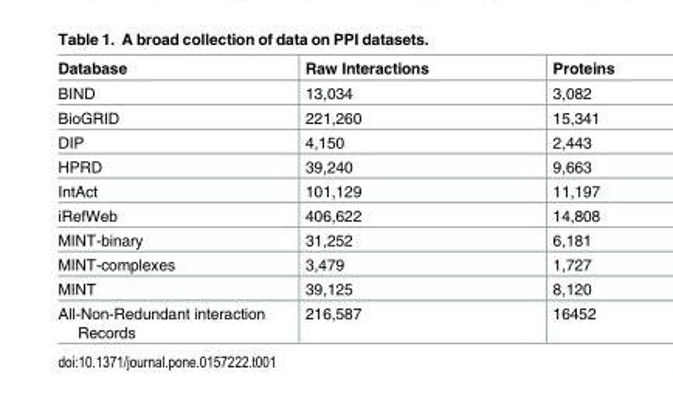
<table><thead><tr><td>Database</td><td>Raw Interactions</td><td>Proteins</td></tr></thead><tbody><tr><td>BIND</td><td>13,034</td><td>3,082</td></tr><tr><td>BioGRID</td><td>221,260</td><td>15,341</td></tr><tr><td>DIP</td><td>4,150</td><td>2,443</td></tr><tr><td>HPRD</td><td>39,240</td><td>9,663</td></tr><tr><td>IntAct</td><td>101,129</td><td>11,197</td></tr><tr><td>iRefWeb</td><td>406,622</td><td>14,808</td></tr><tr><td>MINT-binary</td><td>31,252</td><td>6,181</td></tr><tr><td>MINT-complexes</td><td>3,479</td><td>1,727</td></tr><tr><td>MINT</td><td>39,125</td><td>8,120</td></tr><tr><td>All-Non-Redundant interaction Records</td><td>216,587</td><td>16452</td></tr></tbody></table>